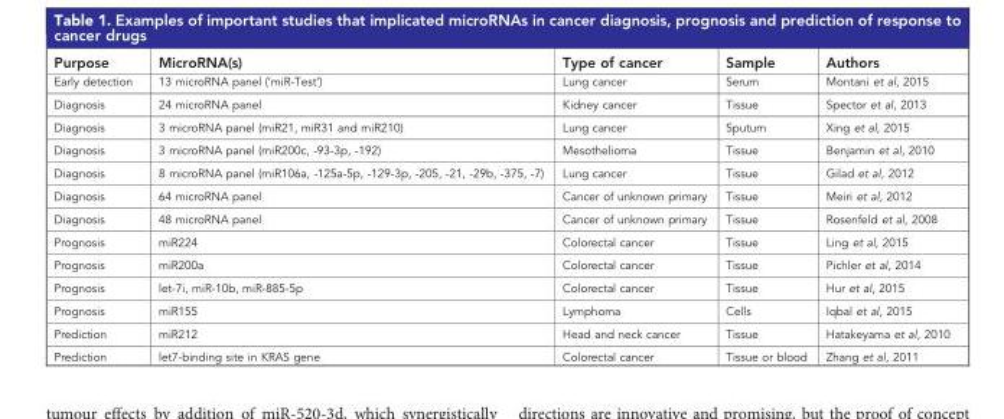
<table><thead><tr><td>Purpose</td><td>MicroRNA(s)</td><td>Type of cancer</td><td>Sample</td><td>Authors</td></tr></thead><tbody><tr><td>Early detection</td><td>13 microRNA panel (‘miR-Test’)</td><td>Lung cancer</td><td>Serum</td><td>Montani et al, 2015</td></tr><tr><td>Diagnosis</td><td>24 microRNA panel</td><td>Kidney cancer</td><td>Tissue</td><td>Spector et al, 2013</td></tr><tr><td>Diagnosis</td><td>3 microRNA panel (miR21, miR31 and miR210)</td><td>Lung cancer</td><td>Sputum</td><td>Xing et al, 2015</td></tr><tr><td>Diagnosis</td><td>3 microRNA panel (miR200c, -93-3p, -192)</td><td>Mesothelioma</td><td>Tissue</td><td>Benjamin et al, 2010</td></tr><tr><td>Diagnosis</td><td>8 microRNA panel (miR106a, -125a-5p, -129-3p, -205, -21, -29b, -375, -7)</td><td>Lung cancer</td><td>Tissue</td><td>Gilad et al, 2012</td></tr><tr><td>Diagnosis</td><td>64 microRNA panel</td><td>Cancer of unknown primary</td><td>Tissue</td><td>Meiri et al, 2012</td></tr><tr><td>Diagnosis</td><td>48 microRNA panel</td><td>Cancer of unknown primary</td><td>Tissue</td><td>Rosenfeld et al, 2008</td></tr><tr><td>Prognosis</td><td>miR224</td><td>Colorectal cancer</td><td>Tissue</td><td>Ling et al, 2015</td></tr><tr><td>Prognosis</td><td>miR200a</td><td>Colorectal cancer</td><td>Tissue</td><td>Pichler et al, 2014</td></tr><tr><td>Prognosis</td><td>let-7i, miR-10b, miR-885-5p</td><td>Colorectal cancer</td><td>Tissue</td><td>Hur et al, 2015</td></tr><tr><td>Prognosis</td><td>miR155</td><td>Lymphoma</td><td>Cells</td><td>Iqbal et al, 2015</td></tr><tr><td>Prediction</td><td>miR212</td><td>Head and neck cancer</td><td>Tissue</td><td>Hatakeyama et al, 2010</td></tr><tr><td>Prediction</td><td>let7-binding site in KRAS gene</td><td>Colorectal cancer</td><td>Tissue or blood</td><td>Zhang et al, 2011</td></tr></tbody></table>